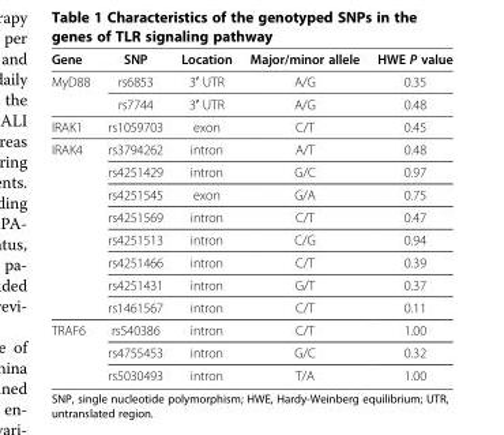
<table><thead><tr><td>Gene</td><td>SNP</td><td>Location</td><td>Major/minor allele</td><td>HWE P value</td></tr></thead><tbody><tr><td rowspan="2">MyD88</td><td>rs6853</td><td>3′ UTR</td><td>A/G</td><td>0.35</td></tr><tr><td>rs7744</td><td>3′ UTR</td><td>A/G</td><td>0.48</td></tr><tr><td>IRAK1</td><td>rs1059703</td><td>exon</td><td>C/T</td><td>0.45</td></tr><tr><td rowspan="8">IRAK4</td><td>rs3794262</td><td>intron</td><td>A/T</td><td>0.48</td></tr><tr><td>rs4251429</td><td>intron</td><td>G/C</td><td>0.97</td></tr><tr><td>rs4251545</td><td>exon</td><td>G/A</td><td>0.75</td></tr><tr><td>rs4251569</td><td>intron</td><td>C/T</td><td>0.47</td></tr><tr><td>rs4251513</td><td>intron</td><td>C/G</td><td>0.94</td></tr><tr><td>rs4251466</td><td>intron</td><td>C/T</td><td>0.39</td></tr><tr><td>rs4251431</td><td>intron</td><td>G/T</td><td>0.37</td></tr><tr><td>rs1461567</td><td>intron</td><td>C/T</td><td>0.11</td></tr><tr><td rowspan="3">TRAF6</td><td>rs540386</td><td>intron</td><td>C/T</td><td>1.00</td></tr><tr><td>rs4755453</td><td>intron</td><td>G/C</td><td>0.32</td></tr><tr><td>rs5030493</td><td>intron</td><td>T/A</td><td>1.00</td></tr></tbody></table>